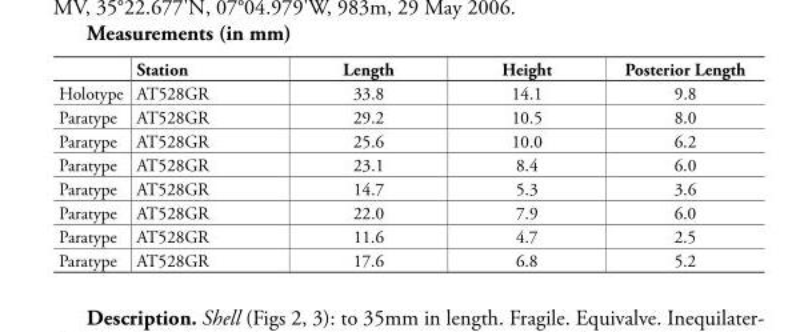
<table><thead><tr><td></td><td>Station</td><td>Length</td><td>Height</td><td>Posterior Length</td></tr></thead><tbody><tr><td>Holotype</td><td>AT528GR</td><td>33.8</td><td>14.1</td><td>9.8</td></tr><tr><td>Paratype</td><td>AT528GR</td><td>29.2</td><td>10.5</td><td>8.0</td></tr><tr><td>Paratype</td><td>AT528GR</td><td>25.6</td><td>10.0</td><td>6.2</td></tr><tr><td>Paratype</td><td>AT528GR</td><td>23.1</td><td>8.4</td><td>6.0</td></tr><tr><td>Paratype</td><td>AT528GR</td><td>14.7</td><td>5.3</td><td>3.6</td></tr><tr><td>Paratype</td><td>AT528GR</td><td>22.0</td><td>7.9</td><td>6.0</td></tr><tr><td>Paratype</td><td>AT528GR</td><td>11.6</td><td>4.7</td><td>2.5</td></tr><tr><td>Paratype</td><td>AT528GR</td><td>17.6</td><td>6.8</td><td>5.2</td></tr></tbody></table>